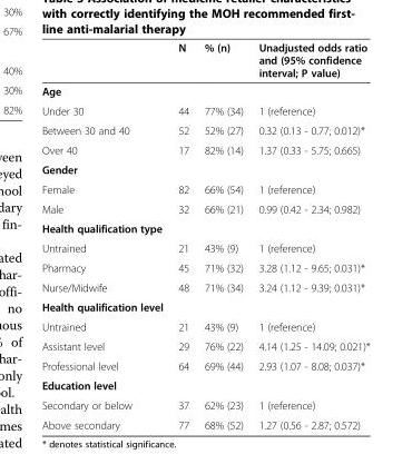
<table><thead><tr><td></td><td>N</td><td>% (n)</td><td>Unadjusted odds ratio and (95% confidence interval; P value)</td></tr></thead><tbody><tr><td colspan="4">Age</td></tr><tr><td>Under 30</td><td>44</td><td>77% (34)</td><td>1 (reference)</td></tr><tr><td>Between 30 and 40</td><td>52</td><td>52% (27)</td><td>0.32 (0.13 - 0.77; 0.012)*</td></tr><tr><td>Over 40</td><td>17</td><td>82% (14)</td><td>1.37 (0.33 - 5.75; 0.665)</td></tr><tr><td colspan="4">Gender</td></tr><tr><td>Female</td><td>82</td><td>66% (54)</td><td>1 (reference)</td></tr><tr><td>Male</td><td>32</td><td>66% (21)</td><td>0.99 (0.42 - 2.34; 0.982)</td></tr><tr><td colspan="4">Health qualification type</td></tr><tr><td>Untrained</td><td>21</td><td>43% (9)</td><td>1 (reference)</td></tr><tr><td>Pharmacy</td><td>45</td><td>71% (32)</td><td>3.28 (1.12 - 9.65; 0.031)*</td></tr><tr><td>Nurse/Midwife</td><td>48</td><td>71% (34)</td><td>3.24 (1.12 - 9.39; 0.031)*</td></tr><tr><td colspan="4">Health qualification level</td></tr><tr><td>Untrained</td><td>21</td><td>43% (9)</td><td>1 (reference)</td></tr><tr><td>Assistant level</td><td>29</td><td>76% (22)</td><td>4.14 (1.25 - 14.09; 0.021)*</td></tr><tr><td>Professional level</td><td>64</td><td>69% (44)</td><td>2.93 (1.07 - 8.08; 0.037)*</td></tr><tr><td colspan="4">Education level</td></tr><tr><td>Secondary or below</td><td>37</td><td>62% (23)</td><td>1 (reference)</td></tr><tr><td>Above secondary</td><td>77</td><td>68% (52)</td><td>1.27 (0.56 - 2.87; 0.572)</td></tr></tbody></table>